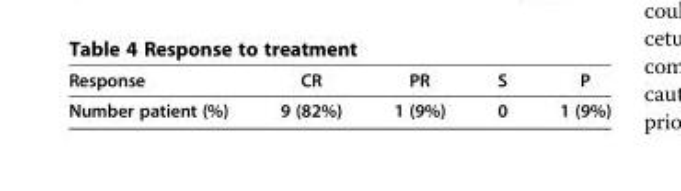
<table><thead><tr><td>Response</td><td>CR</td><td>PR</td><td>S</td><td>P</td></tr></thead><tbody><tr><td>Number patient (%)</td><td>9 (82%)</td><td>1 (9%)</td><td>0</td><td>1 (9%)</td></tr></tbody></table>